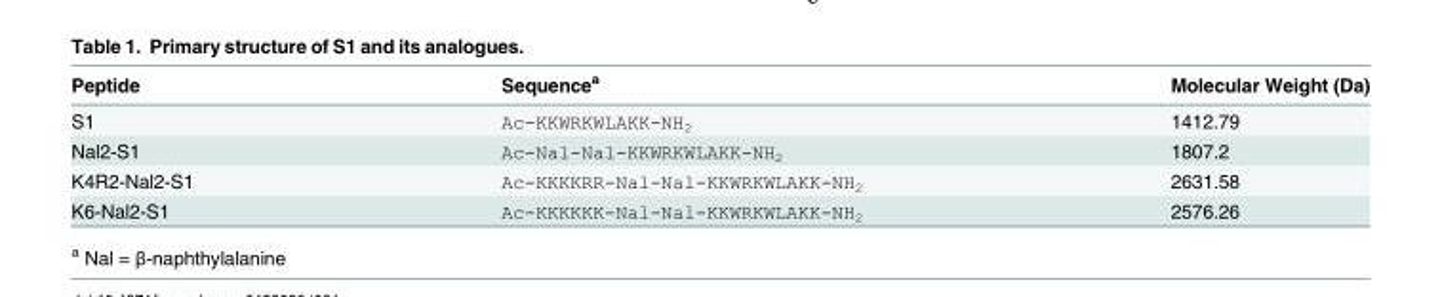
<table><thead><tr><td>Peptide</td><td>Sequence<sup>a</sup></td><td>Molecular Weight (Da)</td></tr></thead><tbody><tr><td>S1</td><td>Ac-KKWRKWLAKK-NH<sub>2</sub></td><td>1412.79</td></tr><tr><td>Nal2-S1</td><td>Ac-Nal-Nal-KKWRKWLAKK-NH<sub>2</sub></td><td>1807.2</td></tr><tr><td>K4R2-Nal2-S1</td><td>Ac-KKKKRR-Nal-Nal-KKWRKWLAKK-NH<sub>2</sub></td><td>2631.58</td></tr><tr><td>K6-Nal2-S1</td><td>Ac-KKKKKK-Nal-Nal-KKWRKWLAKK-NH<sub>2</sub></td><td>2576.26</td></tr></tbody></table>